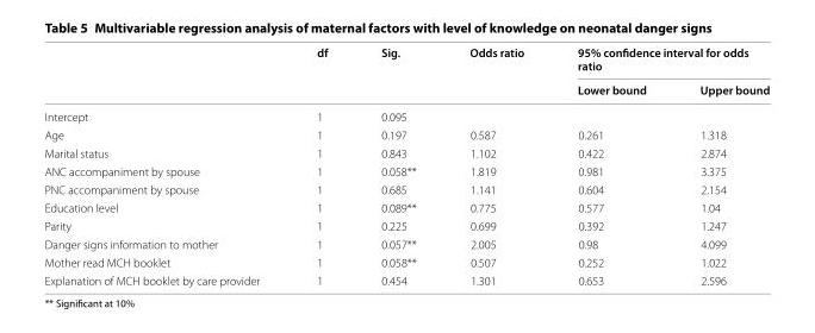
<table><thead><tr><td rowspan="2"></td><td rowspan="2">df</td><td rowspan="2">Sig.</td><td rowspan="2">Odds ratio</td><td colspan="2">95% confidence interval for odds ratio</td></tr><tr><td>Lower bound</td><td>Upper bound</td></tr></thead><tbody><tr><td>Intercept</td><td>1</td><td>0.095</td><td></td><td></td><td></td></tr><tr><td>Age</td><td>1</td><td>0.197</td><td>0.587</td><td>0.261</td><td>1.318</td></tr><tr><td>Marital status</td><td>1</td><td>0.843</td><td>1.102</td><td>0.422</td><td>2.874</td></tr><tr><td>ANC accompaniment by spouse</td><td>1</td><td>0.058**</td><td>1.819</td><td>0.981</td><td>3.375</td></tr><tr><td>PNC accompaniment by spouse</td><td>1</td><td>0.685</td><td>1.141</td><td>0.604</td><td>2.154</td></tr><tr><td>Education level</td><td>1</td><td>0.089**</td><td>0.775</td><td>0.577</td><td>1.04</td></tr><tr><td>Parity</td><td>1</td><td>0.225</td><td>0.699</td><td>0.392</td><td>1.247</td></tr><tr><td>Danger signs information to mother</td><td>1</td><td>0.057**</td><td>2.005</td><td>0.98</td><td>4.099</td></tr><tr><td>Mother read MCH booklet</td><td>1</td><td>0.058**</td><td>0.507</td><td>0.252</td><td>1.022</td></tr><tr><td>Explanation of MCH booklet by care provider</td><td>1</td><td>0.454</td><td>1.301</td><td>0.653</td><td>2.596</td></tr></tbody></table>